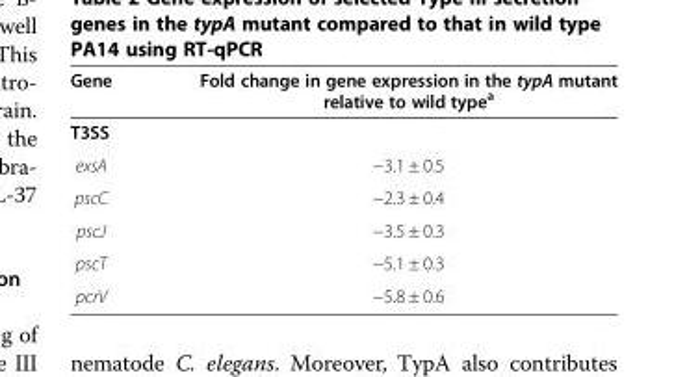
<table><thead><tr><td>Gene</td><td>Fold change in gene expression in the typA mutant relative to wild type<sup>a</sup></td></tr></thead><tbody><tr><td colspan="2">T3SS</td></tr><tr><td>exsA</td><td>−3.1 ± 0.5</td></tr><tr><td>pscC</td><td>−2.3 ± 0.4</td></tr><tr><td>pscJ</td><td>−3.5 ± 0.3</td></tr><tr><td>pscT</td><td>−5.1 ± 0.3</td></tr><tr><td>pcrV</td><td>−5.8 ± 0.6</td></tr></tbody></table>